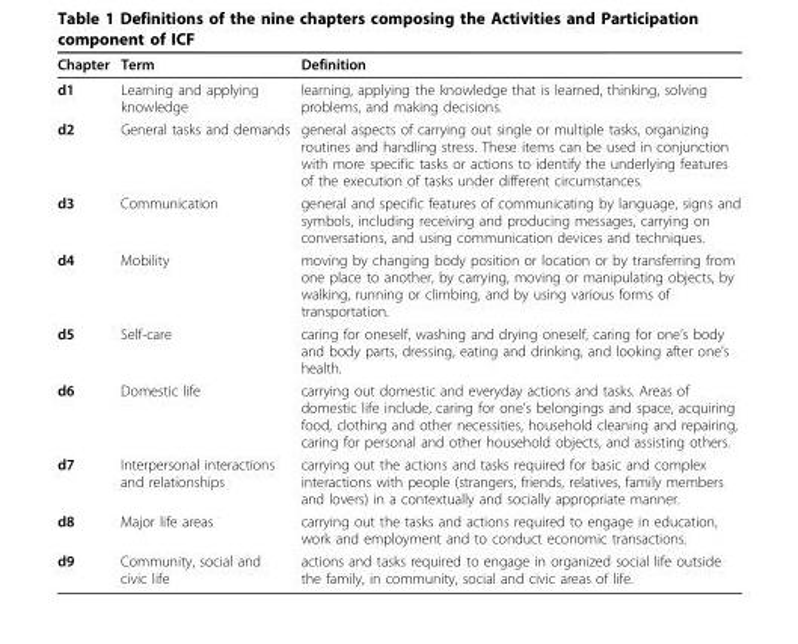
<table><thead><tr><td>Chapter</td><td>Term</td><td>Definition</td></tr></thead><tbody><tr><td>d1</td><td>Learning and applying knowledge</td><td>learning, applying the knowledge that is learned, thinking, solving problems, and making decisions.</td></tr><tr><td>d2</td><td>General tasks and demands</td><td>general aspects of carrying out single or multiple tasks, organizing routines and handling stress. These items can be used in conjunction with more specific tasks or actions to identify the underlying features of the execution of tasks under different circumstances.</td></tr><tr><td>d3</td><td>Communication</td><td>general and specific features of communicating by language, signs and symbols, including receiving and producing messages, carrying on conversations, and using communication devices and techniques.</td></tr><tr><td>d4</td><td>Mobility</td><td>moving by changing body position or location or by transferring from one place to another, by carrying, moving or manipulating objects, by walking, running or climbing, and by using various forms of transportation.</td></tr><tr><td>d5</td><td>Self-care</td><td>caring for oneself, washing and drying oneself, caring for one’s body and body parts, dressing, eating and drinking, and looking after one’s health.</td></tr><tr><td>d6</td><td>Domestic life</td><td>carrying out domestic and everyday actions and tasks. Areas of domestic life include, caring for one’s belongings and space, acquiring food, clothing and other necessities, household cleaning and repairing, caring for personal and other household objects, and assisting others.</td></tr><tr><td>d7</td><td>Interpersonal interactions and relationships</td><td>carrying out the actions and tasks required for basic and complex interactions with people (strangers, friends, relatives, family members and lovers) in a contextually and socially appropriate manner.</td></tr><tr><td>d8</td><td>Major life areas</td><td>carrying out the tasks and actions required to engage in education, work and employment and to conduct economic transactions.</td></tr><tr><td>d9</td><td>Community, social and civic life</td><td>actions and tasks required to engage in organized social life outside the family, in community, social and civic areas of life.</td></tr></tbody></table>